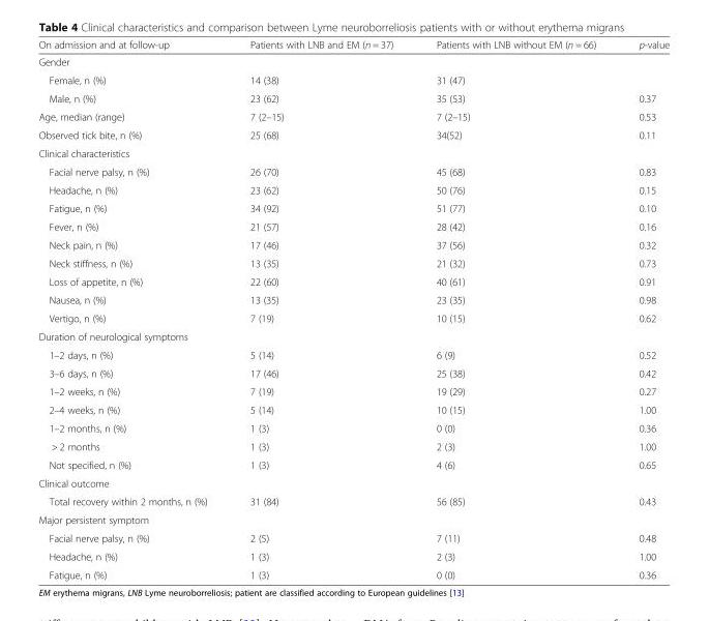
<table><thead><tr><td>On admission and at follow-up</td><td>Patients with LNB and EM (n = 37)</td><td>Patients with LNB without EM (n = 66)</td><td>p-value</td></tr></thead><tbody><tr><td colspan="4">Gender</td></tr><tr><td>Female, n (%)</td><td>14 (38)</td><td>31 (47)</td><td></td></tr><tr><td>Male, n (%)</td><td>23 (62)</td><td>35 (53)</td><td>0.37</td></tr><tr><td>Age, median (range)</td><td>7 (2–15)</td><td>7 (2–15)</td><td>0.53</td></tr><tr><td>Observed tick bite, n (%)</td><td>25 (68)</td><td>34(52)</td><td>0.11</td></tr><tr><td colspan="4">Clinical characteristics</td></tr><tr><td>Facial nerve palsy, n (%)</td><td>26 (70)</td><td>45 (68)</td><td>0.83</td></tr><tr><td>Headache, n (%)</td><td>23 (62)</td><td>50 (76)</td><td>0.15</td></tr><tr><td>Fatigue, n (%)</td><td>34 (92)</td><td>51 (77)</td><td>0.10</td></tr><tr><td>Fever, n (%)</td><td>21 (57)</td><td>28 (42)</td><td>0.16</td></tr><tr><td>Neck pain, n (%)</td><td>17 (46)</td><td>37 (56)</td><td>0.32</td></tr><tr><td>Neck stiffness, n (%)</td><td>13 (35)</td><td>21 (32)</td><td>0.73</td></tr><tr><td>Loss of appetite, n (%)</td><td>22 (60)</td><td>40 (61)</td><td>0.91</td></tr><tr><td>Nausea, n (%)</td><td>13 (35)</td><td>23 (35)</td><td>0.98</td></tr><tr><td>Vertigo, n (%)</td><td>7 (19)</td><td>10 (15)</td><td>0.62</td></tr><tr><td colspan="4">Duration of neurological symptoms</td></tr><tr><td>1–2 days, n (%)</td><td>5 (14)</td><td>6 (9)</td><td>0.52</td></tr><tr><td>3–6 days, n (%)</td><td>17 (46)</td><td>25 (38)</td><td>0.42</td></tr><tr><td>1–2 weeks, n (%)</td><td>7 (19)</td><td>19 (29)</td><td>0.27</td></tr><tr><td>2–4 weeks, n (%)</td><td>5 (14)</td><td>10 (15)</td><td>1.00</td></tr><tr><td>1–2 months, n (%)</td><td>1 (3)</td><td>0 (0)</td><td>0.36</td></tr><tr><td>&gt; 2 months</td><td>1 (3)</td><td>2 (3)</td><td>1.00</td></tr><tr><td>Not specified, n (%)</td><td>1 (3)</td><td>4 (6)</td><td>0.65</td></tr><tr><td colspan="4">Clinical outcome</td></tr><tr><td>Total recovery within 2 months, n (%)</td><td>31 (84)</td><td>56 (85)</td><td>0.43</td></tr><tr><td colspan="4">Major persistent symptom</td></tr><tr><td>Facial nerve palsy, n (%)</td><td>2 (5)</td><td>7 (11)</td><td>0.48</td></tr><tr><td>Headache, n (%)</td><td>1 (3)</td><td>2 (3)</td><td>1.00</td></tr><tr><td>Fatigue, n (%)</td><td>1 (3)</td><td>0 (0)</td><td>0.36</td></tr></tbody></table>